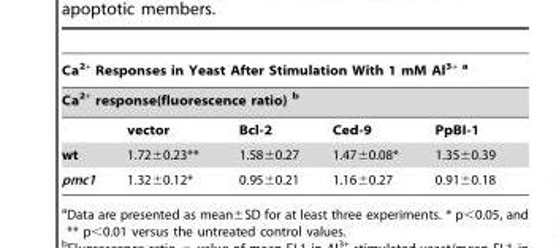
<table><thead><tr><td rowspan="2" colspan="5">Ca<sup>2+</sup> Responses in Yeast After Stimulation With 1 mM Al<sup>3+</sup> a Ca<sup>2+</sup> response(fluorescence ratio) b</td></tr><tr></tr><tr><td></td><td>vector</td><td>Bcl-2</td><td>Ced-9</td><td>PpBI-1</td></tr></thead><tbody><tr><td>wt</td><td>1.72±0.23**</td><td>1.58±0.27</td><td>1.47±0.08*</td><td>1.35±0.39</td></tr><tr><td>pmc1</td><td>1.32±0.12*</td><td>0.95±0.21</td><td>1.16±0.27</td><td>0.91±0.18</td></tr></tbody></table>